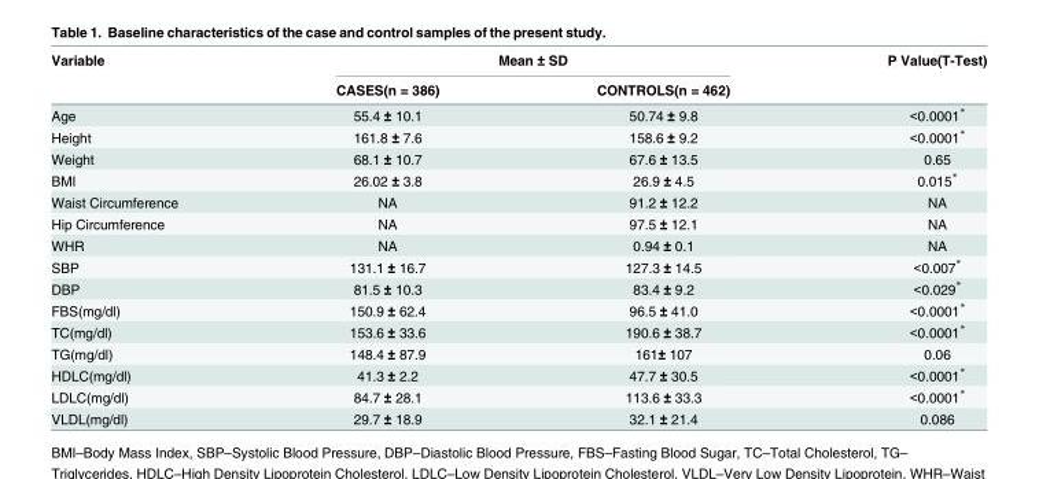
<table><thead><tr><td rowspan="2">Variable</td><td colspan="2">Mean ± SD</td><td rowspan="2">P Value(T-Test)</td></tr><tr><td>CASES(n = 386)</td><td>CONTROLS(n = 462)</td></tr></thead><tbody><tr><td>Age</td><td>55.4 ± 10.1</td><td>50.74 ± 9.8</td><td>&lt;0.0001*</td></tr><tr><td>Height</td><td>161.8 ± 7.6</td><td>158.6 ± 9.2</td><td>&lt;0.0001*</td></tr><tr><td>Weight</td><td>68.1 ± 10.7</td><td>67.6 ± 13.5</td><td>0.65</td></tr><tr><td>BMI</td><td>26.02 ± 3.8</td><td>26.9 ± 4.5</td><td>0.015*</td></tr><tr><td>Waist Circumference</td><td>NA</td><td>91.2 ± 12.2</td><td>NA</td></tr><tr><td>Hip Circumference</td><td>NA</td><td>97.5 ± 12.1</td><td>NA</td></tr><tr><td>WHR</td><td>NA</td><td>0.94 ± 0.1</td><td>NA</td></tr><tr><td>SBP</td><td>131.1 ± 16.7</td><td>127.3 ± 14.5</td><td>&lt;0.007*</td></tr><tr><td>DBP</td><td>81.5 ± 10.3</td><td>83.4 ± 9.2</td><td>&lt;0.029*</td></tr><tr><td>FBS(mg/dl)</td><td>150.9 ± 62.4</td><td>96.5 ± 41.0</td><td>&lt;0.0001*</td></tr><tr><td>TC(mg/dl)</td><td>153.6 ± 33.6</td><td>190.6 ± 38.7</td><td>&lt;0.0001*</td></tr><tr><td>TG(mg/dl)</td><td>148.4 ± 87.9</td><td>161± 107</td><td>0.06</td></tr><tr><td>HDLC(mg/dl)</td><td>41.3 ± 2.2</td><td>47.7 ± 30.5</td><td>&lt;0.0001*</td></tr><tr><td>LDLC(mg/dl)</td><td>84.7 ± 28.1</td><td>113.6 ± 33.3</td><td>&lt;0.0001*</td></tr><tr><td>VLDL(mg/dl)</td><td>29.7 ± 18.9</td><td>32.1 ± 21.4</td><td>0.086</td></tr></tbody></table>